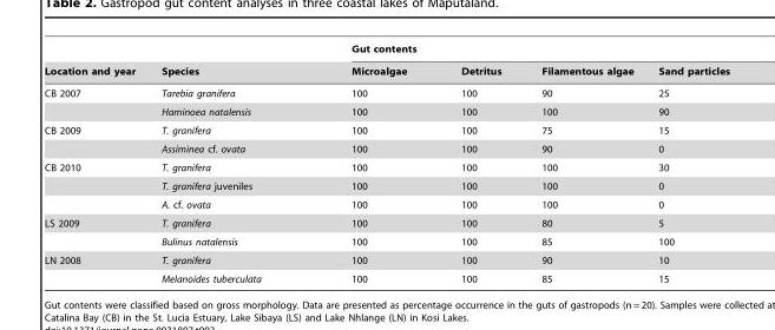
<table><thead><tr><td rowspan="2">Location and year</td><td rowspan="2">Species</td><td colspan="4">Gut contents</td></tr><tr><td>Microalgae</td><td>Detritus</td><td>Filamentous algae</td><td>Sand particles</td></tr></thead><tbody><tr><td rowspan="2">CB 2007</td><td>Tarebia granifera</td><td>100</td><td>100</td><td>90</td><td>25</td></tr><tr><td>Haminoea natalensis</td><td>100</td><td>100</td><td>100</td><td>90</td></tr><tr><td rowspan="2">CB 2009</td><td>T. granifera</td><td>100</td><td>100</td><td>75</td><td>15</td></tr><tr><td>Assiminea cf. ovata</td><td>100</td><td>100</td><td>90</td><td>0</td></tr><tr><td rowspan="3">CB 2010</td><td>T. granifera</td><td>100</td><td>100</td><td>100</td><td>30</td></tr><tr><td>T. granifera juveniles</td><td>100</td><td>100</td><td>100</td><td>0</td></tr><tr><td>A. cf. ovata</td><td>100</td><td>100</td><td>100</td><td>0</td></tr><tr><td rowspan="2">LS 2009</td><td>T. granifera</td><td>100</td><td>100</td><td>80</td><td>5</td></tr><tr><td>Bulinus natalensis</td><td>100</td><td>100</td><td>85</td><td>100</td></tr><tr><td rowspan="2">LN 2008</td><td>T. granifera</td><td>100</td><td>100</td><td>90</td><td>10</td></tr><tr><td>Melanoides tuberculata</td><td>100</td><td>100</td><td>85</td><td>15</td></tr></tbody></table>